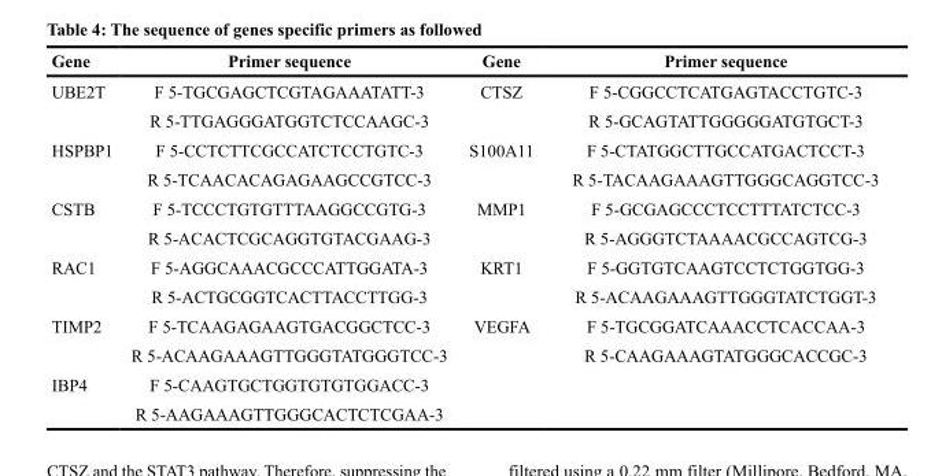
<table><thead><tr><td>Gene</td><td>Primer sequence</td><td>Gene</td><td>Primer sequence</td></tr></thead><tbody><tr><td rowspan="2">UBE2T</td><td>F 5-TGCGAGCTCGTAGAAATATT-3</td><td>CTSZ</td><td>F 5-CGGCCTCATGAGTACCTGTC-3</td></tr><tr><td>R 5-TTGAGGGATGGTCTCCAAGC-3</td><td></td><td>R 5-GCAGTATTGGGGGATGTGCT-3</td></tr><tr><td rowspan="2">HSPBP1</td><td>F 5-CCTCTTCGCCATCTCCTGTC-3</td><td>S100A11</td><td>F 5-CTATGGCTTGCCATGACTCCT-3</td></tr><tr><td>R 5-TCAACACAGAGAAGCCGTCC-3</td><td></td><td>R 5-TACAAGAAAGTTGGGCAGGTCC-3</td></tr><tr><td rowspan="2">CSTB</td><td>F 5-TCCCTGTGTTTAAGGCCGTG-3</td><td>MMP1</td><td>F 5-GCGAGCCCTCCTTTATCTCC-3</td></tr><tr><td>R 5-ACACTCGCAGGTGTACGAAG-3</td><td></td><td>R 5-AGGGTCTAAAACGCCAGTCG-3</td></tr><tr><td rowspan="2">RAC1</td><td>F 5-AGGCAAACGCCCATTGGATA-3</td><td>KRT1</td><td>F 5-GGTGTCAAGTCCTCTGGTGG-3</td></tr><tr><td>R 5-ACTGCGGTCACTTACCTTGG-3</td><td></td><td>R 5-ACAAGAAAGTTGGGTATCTGGT-3</td></tr><tr><td rowspan="2">TIMP2</td><td>F 5-TCAAGAGAAGTGACGGCTCC-3</td><td>VEGFA</td><td>F 5-TGCGGATCAAACCTCACCAA-3</td></tr><tr><td>R 5-ACAAGAAAGTTGGGTATGGGTCC-3</td><td></td><td>R 5-CAAGAAAGTATGGGCACCGC-3</td></tr><tr><td rowspan="2">IBP4</td><td>F 5-CAAGTGCTGGTGTGTGGACC-3</td><td></td><td></td></tr><tr><td>R 5-AAGAAAGTTGGGCACTCTCGAA-3</td><td></td><td></td></tr></tbody></table>